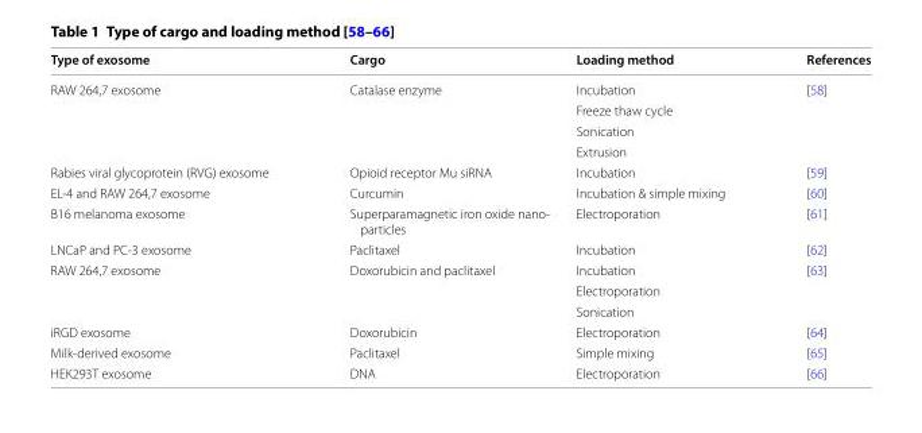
<table><thead><tr><td>Type of exosome</td><td>Cargo</td><td>Loading method</td><td>References</td></tr></thead><tbody><tr><td rowspan="4">RAW 264,7 exosome</td><td rowspan="4">Catalase enzyme</td><td>Incubation</td><td rowspan="4">[58]</td></tr><tr><td>Freeze thaw cycle</td></tr><tr><td>Sonication</td></tr><tr><td>Extrusion</td></tr><tr><td>Rabies viral glycoprotein (RVG) exosome</td><td>Opioid receptor Mu siRNA</td><td>Incubation</td><td>[59]</td></tr><tr><td>EL-4 and RAW 264,7 exosome</td><td>Curcumin</td><td>Incubation &amp; simple mixing</td><td>[60]</td></tr><tr><td>B16 melanoma exosome</td><td>Superparamagnetic iron oxide nano- particles</td><td>Electroporation</td><td>[61]</td></tr><tr><td>LNCaP and PC-3 exosome</td><td>Paclitaxel</td><td>Incubation</td><td>[62]</td></tr><tr><td rowspan="3">RAW 264,7 exosome</td><td rowspan="3">Doxorubicin and paclitaxel</td><td>Incubation</td><td rowspan="3">[63]</td></tr><tr><td>Electroporation</td></tr><tr><td>Sonication</td></tr><tr><td>iRGD exosome</td><td>Doxorubicin</td><td>Electroporation</td><td>[64]</td></tr><tr><td>Milk-derived exosome</td><td>Paclitaxel</td><td>Simple mixing</td><td>[65]</td></tr><tr><td>HEK293T exosome</td><td>DNA</td><td>Electroporation</td><td>[66]</td></tr></tbody></table>